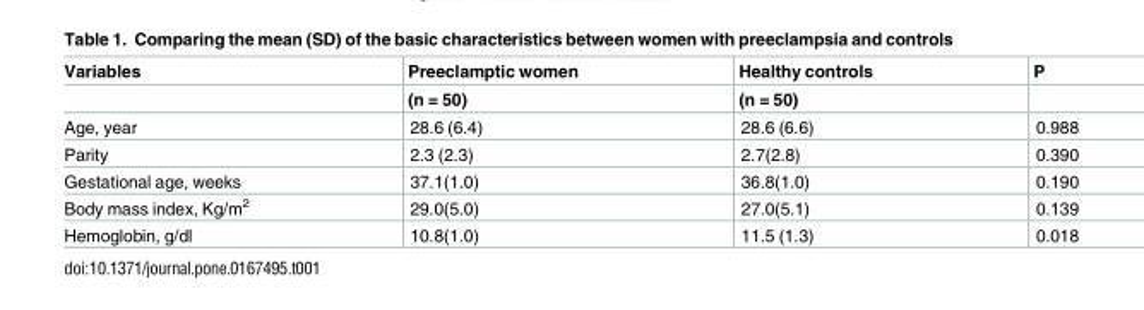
<table><thead><tr><td rowspan="2">Variables</td><td rowspan="2">Preeclamptic women (n = 50)</td><td rowspan="2">Healthy controls (n = 50)</td><td rowspan="2">P</td></tr><tr></tr></thead><tbody><tr><td>Age, year</td><td>28.6 (6.4)</td><td>28.6 (6.6)</td><td>0.988</td></tr><tr><td>Parity</td><td>2.3 (2.3)</td><td>2.7(2.8)</td><td>0.390</td></tr><tr><td>Gestational age, weeks</td><td>37.1(1.0)</td><td>36.8(1.0)</td><td>0.190</td></tr><tr><td>Body mass index, Kg/m<sup>2</sup></td><td>29.0(5.0)</td><td>27.0(5.1)</td><td>0.139</td></tr><tr><td>Hemoglobin, g/dl</td><td>10.8(1.0)</td><td>11.5 (1.3)</td><td>0.018</td></tr></tbody></table>